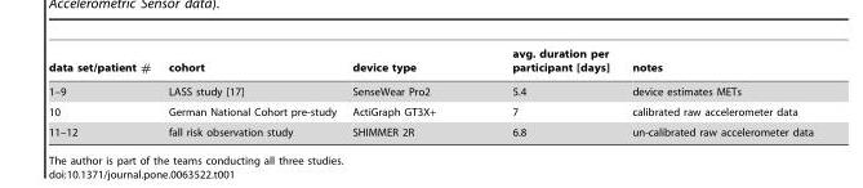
<table><thead><tr><td>data set/patient #</td><td>cohort</td><td>device type</td><td>avg. duration per participant [days]</td><td>notes</td></tr></thead><tbody><tr><td>1–9</td><td>LASS study [17]</td><td>SenseWear Pro2</td><td>5.4</td><td>device estimates METs</td></tr><tr><td>10</td><td>German National Cohort pre-study</td><td>ActiGraph GT3X+</td><td>7</td><td>calibrated raw accelerometer data</td></tr><tr><td>11–12</td><td>fall risk observation study</td><td>SHIMMER 2R</td><td>6.8</td><td>un-calibrated raw accelerometer data</td></tr></tbody></table>